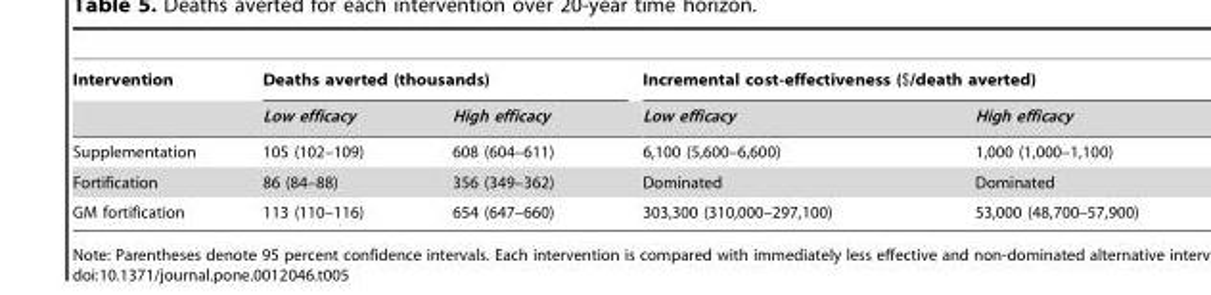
<table><thead><tr><td rowspan="2">Intervention</td><td colspan="2">Deaths averted (thousands)</td><td colspan="2">Incremental cost-effectiveness ($/death averted)</td></tr><tr><td>Low efficacy</td><td>High efficacy</td><td>Low efficacy</td><td>High efficacy</td></tr></thead><tbody><tr><td>Supplementation</td><td>105 (102–109)</td><td>608 (604–611)</td><td>6,100 (5,600–6,600)</td><td>1,000 (1,000–1,100)</td></tr><tr><td>Fortification</td><td>86 (84–88)</td><td>356 (349–362)</td><td>Dominated</td><td>Dominated</td></tr><tr><td>GM fortification</td><td>113 (110–116)</td><td>654 (647–660)</td><td>303,300 (310,000–297,100)</td><td>53,000 (48,700–57,900)</td></tr></tbody></table>